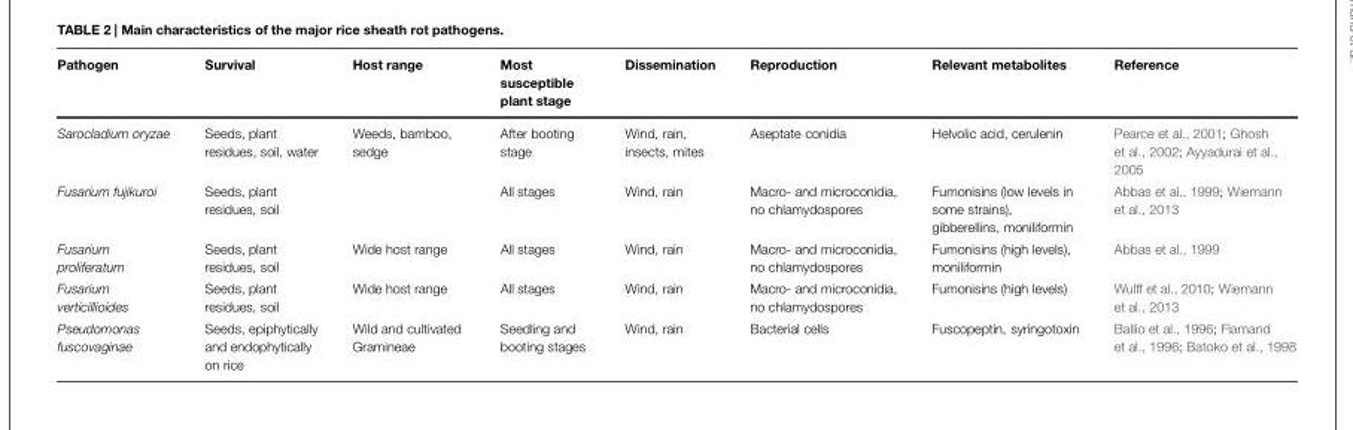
<table><thead><tr><td>Pathogen</td><td>Survival</td><td>Host range</td><td>Most susceptible plant stage</td><td>Dissemination</td><td>Reproduction</td><td>Relevant metabolites</td><td>Reference</td></tr></thead><tbody><tr><td>Sarocladium oryzae</td><td>Seeds, plant residues, soil, water</td><td>Weeds, bamboo, sedge</td><td>After booting stage</td><td>Wind, rain, insects, mites</td><td>Aseptate conidia</td><td>Helvolic acid, cerulenin</td><td>Pearce et al., 2001; Ghosh et al., 2002; Ayyadurai et al., 2005</td></tr><tr><td>Fusarium fujikuroi</td><td>Seeds, plant residues, soil</td><td></td><td>All stages</td><td>Wind, rain</td><td>Macro- and microconidia, no chlamydospores</td><td>Fumonisins (low levels in some strains), gibberellins, moniliformin</td><td>Abbas et al., 1999; Wiemann et al., 2013</td></tr><tr><td>Fusarium proliferatum</td><td>Seeds, plant residues, soil</td><td>Wide host range</td><td>All stages</td><td>Wind, rain</td><td>Macro- and microconidia, no chlamydospores</td><td>Fumonisins (high levels), moniliformin</td><td>Abbas et al., 1999</td></tr><tr><td>Fusarium verticillioides</td><td>Seeds, plant residues, soil</td><td>Wide host range</td><td>All stages</td><td>Wind, rain</td><td>Macro- and microconidia, no chlamydospores</td><td>Fumonisins (high levels)</td><td>Wulff et al., 2010; Wiemann et al., 2013</td></tr><tr><td>Pseudomonas fuscovaginae</td><td>Seeds, epiphytically and endophytically on rice</td><td>Wild and cultivated Gramineae</td><td>Seedling and booting stages</td><td>Wind, rain</td><td>Bacterial cells</td><td>Fuscopeptin, syringotoxin</td><td>Ballio et al., 1996; Flamand et al., 1996; Batoko et al., 1998</td></tr></tbody></table>